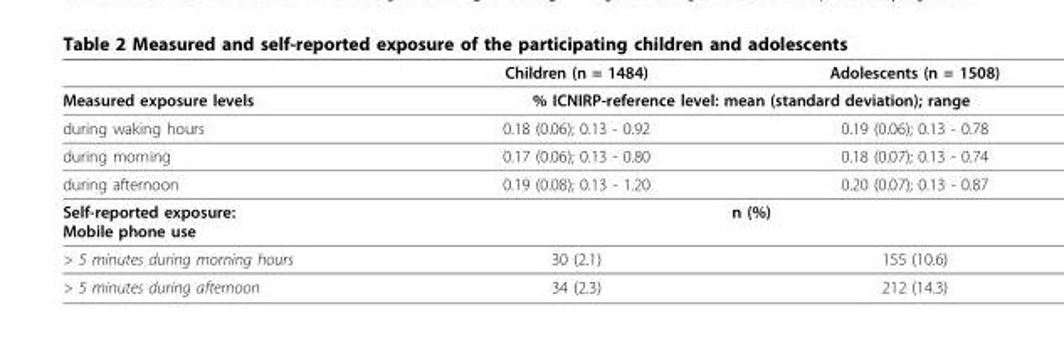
<table><thead><tr><td></td><td>Children (n = 1484)</td><td>Adolescents (n = 1508)</td></tr></thead><tbody><tr><td>Measured exposure levels</td><td colspan="2">% ICNIRP-reference level: mean (standard deviation); range</td></tr><tr><td>during waking hours</td><td>0.18 (0.06); 0.13 - 0.92</td><td>0.19 (0.06); 0.13 - 0.78</td></tr><tr><td>during morning</td><td>0.17 (0.06); 0.13 - 0.80</td><td>0.18 (0.07); 0.13 - 0.74</td></tr><tr><td>during afternoon</td><td>0.19 (0.08); 0.13 - 1.20</td><td>0.20 (0.07); 0.13 - 0.87</td></tr><tr><td>Self-reported exposure: Mobile phone use</td><td colspan="2">n (%)</td></tr><tr><td>&gt; 5 minutes during morning hours</td><td>30 (2.1)</td><td>155 (10.6)</td></tr><tr><td>&gt; 5 minutes during afternoon</td><td>34 (2.3)</td><td>212 (14.3)</td></tr></tbody></table>